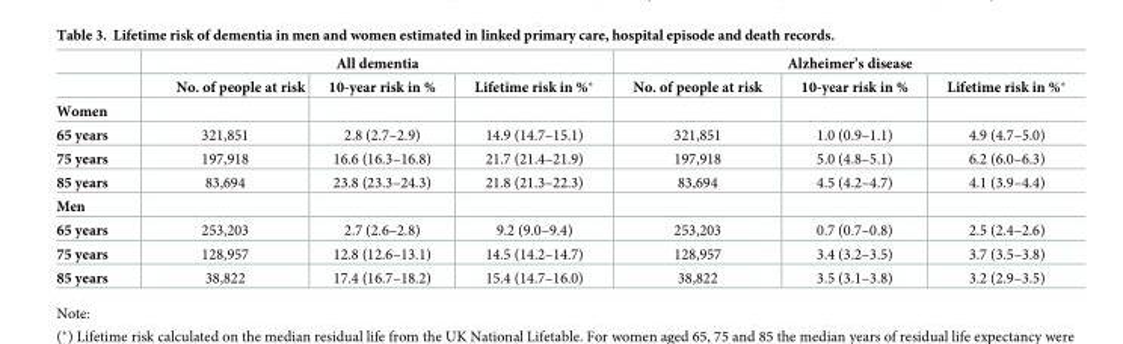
<table><thead><tr><td rowspan="2"></td><td colspan="3">All dementia</td><td colspan="3">Alzheimer’s disease</td></tr><tr><td>No. of people at risk</td><td>10-year risk in %</td><td>Lifetime risk in %*</td><td>No. of people at risk</td><td>10-year risk in %</td><td>Lifetime risk in %*</td></tr></thead><tbody><tr><td colspan="7">Women</td></tr><tr><td>65 years</td><td>321,851</td><td>2.8 (2.7–2.9)</td><td>14.9 (14.7–15.1)</td><td>321,851</td><td>1.0 (0.9–1.1)</td><td>4.9 (4.7–5.0)</td></tr><tr><td>75 years</td><td>197,918</td><td>16.6 (16.3–16.8)</td><td>21.7 (21.4–21.9)</td><td>197,918</td><td>5.0 (4.8–5.1)</td><td>6.2 (6.0–6.3)</td></tr><tr><td>85 years</td><td>83,694</td><td>23.8 (23.3–24.3)</td><td>21.8 (21.3–22.3)</td><td>83,694</td><td>4.5 (4.2–4.7)</td><td>4.1 (3.9–4.4)</td></tr><tr><td colspan="7">Men</td></tr><tr><td>65 years</td><td>253,203</td><td>2.7 (2.6–2.8)</td><td>9.2 (9.0–9.4)</td><td>253,203</td><td>0.7 (0.7–0.8)</td><td>2.5 (2.4–2.6)</td></tr><tr><td>75 years</td><td>128,957</td><td>12.8 (12.6–13.1)</td><td>14.5 (14.2–14.7)</td><td>128,957</td><td>3.4 (3.2–3.5)</td><td>3.7 (3.5–3.8)</td></tr><tr><td>85 years</td><td>38,822</td><td>17.4 (16.7–18.2)</td><td>15.4 (14.7–16.0)</td><td>38,822</td><td>3.5 (3.1–3.8)</td><td>3.2 (2.9–3.5)</td></tr></tbody></table>